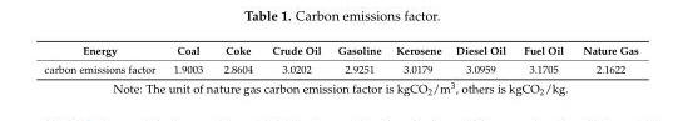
<table><thead><tr><td>Energy</td><td>Coal</td><td>Coke</td><td>Crude Oil</td><td>Gasoline</td><td>Kerosene</td><td>Diesel Oil</td><td>Fuel Oil</td><td>Nature Gas</td></tr></thead><tbody><tr><td>carbon emissions factor</td><td>1.9003</td><td>2.8604</td><td>3.0202</td><td>2.9251</td><td>3.0179</td><td>3.0959</td><td>3.1705</td><td>2.1622</td></tr></tbody></table>